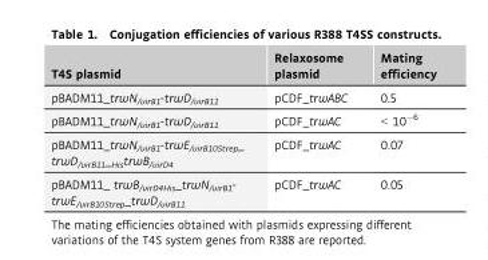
<table><thead><tr><td>T4S plasmid</td><td>Relaxosome plasmid</td><td>Mating efficiency</td></tr></thead><tbody><tr><td>pBADM11_trwN<sub>/virB1</sub>-trwD<sub>/virB11</sub></td><td>pCDF_trwABC</td><td>0.5</td></tr><tr><td>pBADM11_trwN<sub>/virB1</sub>-trwD<sub>/virB11</sub></td><td>pCDF_trwAC</td><td>&lt; 10<sup>−6</sup></td></tr><tr><td>pBADM11_trwN/virB1-trwE/virB10Strep_ trwD/virB11_HistrwB/virD4</td><td>pCDF_trwAC</td><td>0.07</td></tr><tr><td>pBADM11_ trwB<sub>/virD4His</sub>_trwN<sub>/virB1</sub>- trwE<sub>/virB10Strep</sub>_trwD<sub>/virB11</sub></td><td>pCDF_trwAC</td><td>0.05</td></tr></tbody></table>